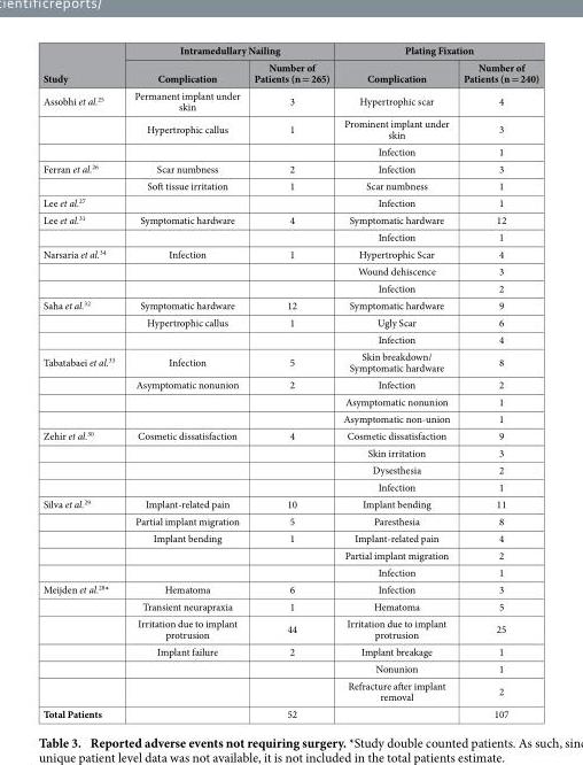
<table><thead><tr><td rowspan="2">Study</td><td colspan="2">Intramedullary Nailing</td><td colspan="2">Plating Fixation</td></tr><tr><td>Complication</td><td>Number of Patients (n = 265)</td><td>Complication</td><td>Number of Patients (n = 240)</td></tr></thead><tbody><tr><td rowspan="3">Assobhi et al.<sup>25</sup></td><td>Permanent implant under skin</td><td>3</td><td>Hypertrophic scar</td><td>4</td></tr><tr><td>Hypertrophic callus</td><td>1</td><td>Prominent implant under skin</td><td>3</td></tr><tr><td></td><td></td><td>Infection</td><td>1</td></tr><tr><td rowspan="2">Ferran et al.<sup>26</sup></td><td>Scar numbness</td><td>2</td><td>Infection</td><td>3</td></tr><tr><td>Soft tissue irritation</td><td>1</td><td>Scar numbness</td><td>1</td></tr><tr><td>Lee et al.<sup>27</sup></td><td></td><td></td><td>Infection</td><td>1</td></tr><tr><td rowspan="2">Lee et al.<sup>31</sup></td><td>Symptomatic hardware</td><td>4</td><td>Symptomatic hardware</td><td>12</td></tr><tr><td></td><td></td><td>Infection</td><td>1</td></tr><tr><td rowspan="3">Narsaria et al.<sup>34</sup></td><td>Infection</td><td>1</td><td>Hypertrophic Scar</td><td>4</td></tr><tr><td></td><td></td><td>Wound dehiscence</td><td>3</td></tr><tr><td></td><td></td><td>Infection</td><td>2</td></tr><tr><td rowspan="3">Saha et al.<sup>32</sup></td><td>Symptomatic hardware</td><td>12</td><td>Symptomatic hardware</td><td>9</td></tr><tr><td>Hypertrophic callus</td><td>1</td><td>Ugly Scar</td><td>6</td></tr><tr><td></td><td></td><td>Infection</td><td>4</td></tr><tr><td rowspan="4">Tabatabaei et al.<sup>33</sup></td><td>Infection</td><td>5</td><td>Skin breakdown/ Symptomatic hardware</td><td>8</td></tr><tr><td>Asymptomatic nonunion</td><td>2</td><td>Infection</td><td>2</td></tr><tr><td></td><td></td><td>Asymptomatic nonunion</td><td>1</td></tr><tr><td></td><td></td><td>Asymptomatic non-union</td><td>1</td></tr><tr><td rowspan="4">Zehir et al.<sup>30</sup></td><td>Cosmetic dissatisfaction</td><td>4</td><td>Cosmetic dissatisfaction</td><td>9</td></tr><tr><td></td><td></td><td>Skin irritation</td><td>3</td></tr><tr><td></td><td></td><td>Dysesthesia</td><td>2</td></tr><tr><td></td><td></td><td>Infection</td><td>1</td></tr><tr><td rowspan="5">Silva et al.<sup>29</sup></td><td>Implant-related pain</td><td>10</td><td>Implant bending</td><td>11</td></tr><tr><td>Partial implant migration</td><td>5</td><td>Paresthesia</td><td>8</td></tr><tr><td>Implant bending</td><td>1</td><td>Implant-related pain</td><td>4</td></tr><tr><td></td><td></td><td>Partial implant migration</td><td>2</td></tr><tr><td></td><td></td><td>Infection</td><td>1</td></tr><tr><td rowspan="6">Meijden et al.<sup>28</sup>*</td><td>Hematoma</td><td>6</td><td>Infection</td><td>3</td></tr><tr><td>Transient neurapraxia</td><td>1</td><td>Hematoma</td><td>5</td></tr><tr><td>Irritation due to implant protrusion</td><td>44</td><td>Irritation due to implant protrusion</td><td>25</td></tr><tr><td>Implant failure</td><td>2</td><td>Implant breakage</td><td>1</td></tr><tr><td></td><td></td><td>Nonunion</td><td>1</td></tr><tr><td></td><td></td><td>Refracture after implant removal</td><td>2</td></tr><tr><td>Total Patients</td><td></td><td>52</td><td></td><td>107</td></tr></tbody></table>